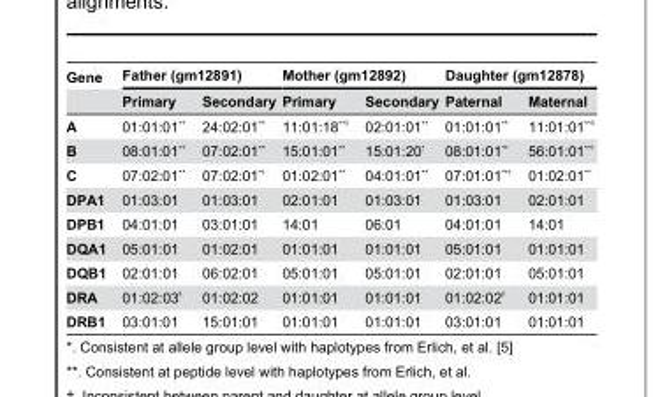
<table><thead><tr><td rowspan="2">Gene</td><td colspan="2">Father (gm12891)</td><td colspan="2">Mother (gm12892)</td><td colspan="2">Daughter (gm12878)</td></tr><tr><td>Primary</td><td>Secondary</td><td>Primary</td><td>Secondary</td><td>Paternal</td><td>Maternal</td></tr></thead><tbody><tr><td>A</td><td>01:01:01**</td><td>24:02:01**</td><td>11:01:18**<sup>§</sup></td><td>02:01:01**</td><td>01:01:01**</td><td>11:01:01**<sup>§</sup></td></tr><tr><td>B</td><td>08:01:01**</td><td>07:02:01**</td><td>15:01:01**</td><td>15:01:20 <sup>†</sup></td><td>08:01:01**</td><td>56:01:01**<sup>†</sup></td></tr><tr><td>C</td><td>07:02:01**</td><td>07:02:01*<sup>‡</sup></td><td>01:02:01**</td><td>04:01:01**</td><td>07:01:01**<sup>‡</sup></td><td>01:02:01**</td></tr><tr><td>DPA1</td><td>01:03:01</td><td>01:03:01</td><td>02:01:01</td><td>01:03:01</td><td>01:03:01</td><td>02:01:01</td></tr><tr><td>DPB1</td><td>04:01:01</td><td>03:01:01</td><td>14:01</td><td>06:01</td><td>04:01:01</td><td>14:01</td></tr><tr><td>DQA1</td><td>05:01:01</td><td>01:02:01</td><td>01:01:01</td><td>01:01:01</td><td>05:01:01</td><td>01:01:01</td></tr><tr><td>DQB1</td><td>02:01:01</td><td>06:02:01</td><td>05:01:01</td><td>05:01:01</td><td>02:01:01</td><td>05:01:01</td></tr><tr><td>DRA</td><td>01:02:03 <sup>§</sup></td><td>01:02:02</td><td>01:01:01</td><td>01:01:01</td><td>01:02:02 <sup>§</sup></td><td>01:01:01</td></tr><tr><td>DRB1</td><td>03:01:01</td><td>15:01:01</td><td>01:01:01</td><td>01:01:01</td><td>03:01:01</td><td>01:01:01</td></tr></tbody></table>